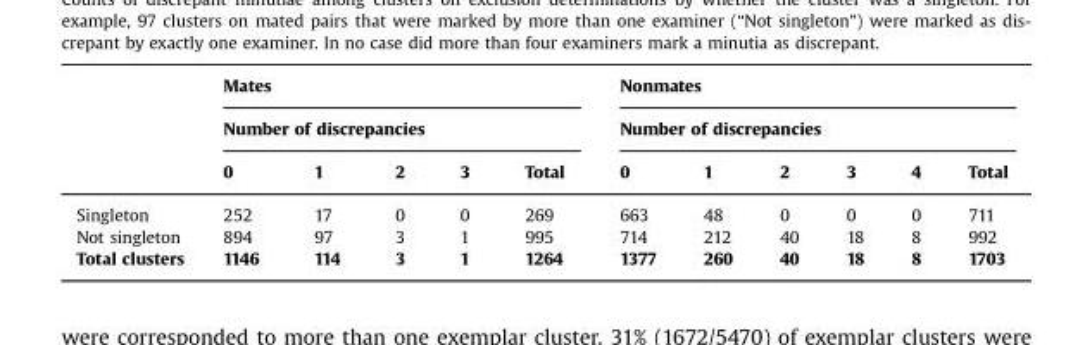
<table><thead><tr><td rowspan="3"></td><td rowspan="2" colspan="5">Mates Number of discrepancies</td><td rowspan="2" colspan="6">Nonmates Number of discrepancies</td></tr><tr></tr><tr><td>0</td><td>1</td><td>2</td><td>3</td><td>Total</td><td>0</td><td>1</td><td>2</td><td>3</td><td>4</td><td>Total</td></tr></thead><tbody><tr><td>Singleton</td><td>252</td><td>17</td><td>0</td><td>0</td><td>269</td><td>663</td><td>48</td><td>0</td><td>0</td><td>0</td><td>711</td></tr><tr><td>Not singleton</td><td>894</td><td>97</td><td>3</td><td>1</td><td>995</td><td>714</td><td>212</td><td>40</td><td>18</td><td>8</td><td>992</td></tr><tr><td>Total clusters</td><td>1146</td><td>114</td><td>3</td><td>1</td><td>1264</td><td>1377</td><td>260</td><td>40</td><td>18</td><td>8</td><td>1703</td></tr></tbody></table>